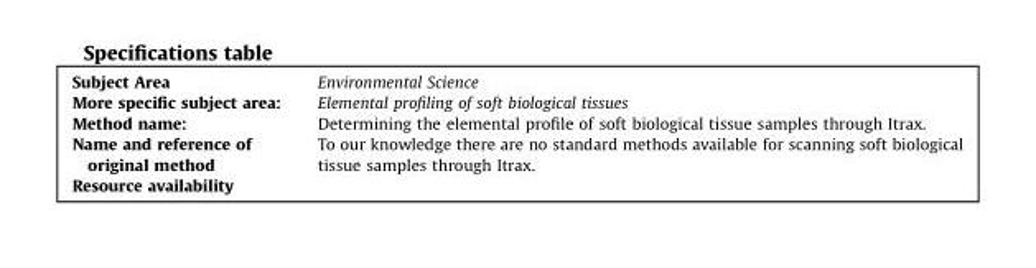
<table><tbody><tr><td>Subject Area</td><td>Environmental Science</td></tr><tr><td>More specific subject area:</td><td>Elemental profiling of soft biological tissues</td></tr><tr><td>Method name:</td><td>Determining the elemental profile of soft biological tissue samples through Itrax.</td></tr><tr><td>Name and reference of original method</td><td>To our knowledge there are no standard methods available for scanning soft biological tissue samples through Itrax.</td></tr><tr><td>Resource availability</td><td></td></tr></tbody></table>